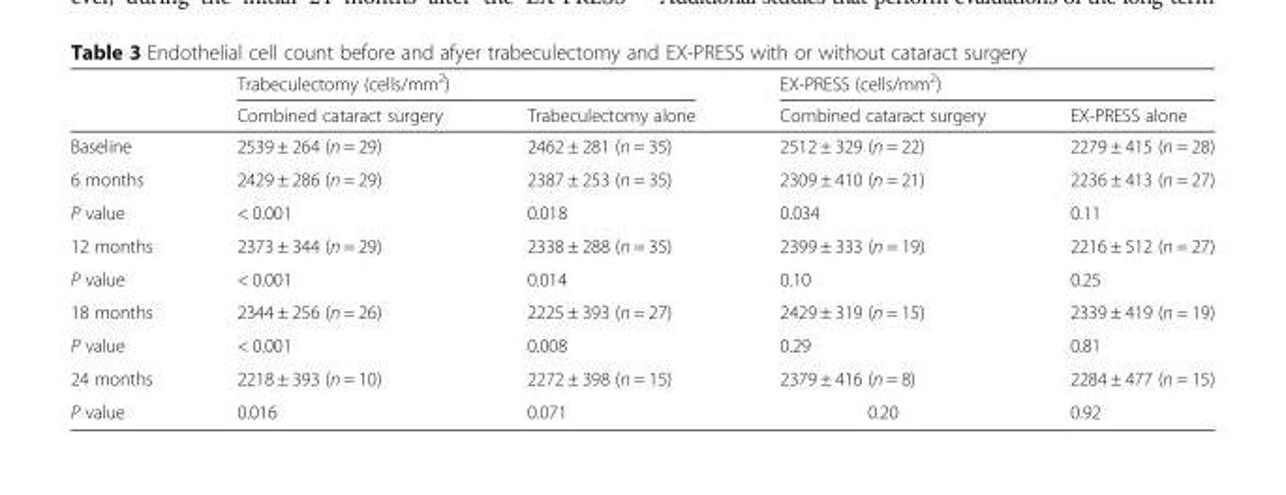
<table><thead><tr><td rowspan="2"></td><td colspan="2">Trabeculectomy (cells/mm<sup>2</sup>)</td><td colspan="2">EX-PRESS (cells/mm<sup>2</sup>)</td></tr><tr><td>Combined cataract surgery</td><td>Trabeculectomy alone</td><td>Combined cataract surgery</td><td>EX-PRESS alone</td></tr></thead><tbody><tr><td>Baseline</td><td>2539 ± 264 (n = 29)</td><td>2462 ± 281 (n = 35)</td><td>2512 ± 329 (n = 22)</td><td>2279 ± 415 (n = 28)</td></tr><tr><td>6 months</td><td>2429 ± 286 (n = 29)</td><td>2387 ± 253 (n = 35)</td><td>2309 ± 410 (n = 21)</td><td>2236 ± 413 (n = 27)</td></tr><tr><td>P value</td><td>&lt; 0.001</td><td>0.018</td><td>0.034</td><td>0.11</td></tr><tr><td>12 months</td><td>2373 ± 344 (n = 29)</td><td>2338 ± 288 (n = 35)</td><td>2399 ± 333 (n = 19)</td><td>2216 ± 512 (n = 27)</td></tr><tr><td>P value</td><td>&lt; 0.001</td><td>0.014</td><td>0.10</td><td>0.25</td></tr><tr><td>18 months</td><td>2344 ± 256 (n = 26)</td><td>2225 ± 393 (n = 27)</td><td>2429 ± 319 (n = 15)</td><td>2339 ± 419 (n = 19)</td></tr><tr><td>P value</td><td>&lt; 0.001</td><td>0.008</td><td>0.29</td><td>0.81</td></tr><tr><td>24 months</td><td>2218 ± 393 (n = 10)</td><td>2272 ± 398 (n = 15)</td><td>2379 ± 416 (n = 8)</td><td>2284 ± 477 (n = 15)</td></tr><tr><td>P value</td><td>0.016</td><td>0.071</td><td>0.20</td><td>0.92</td></tr></tbody></table>